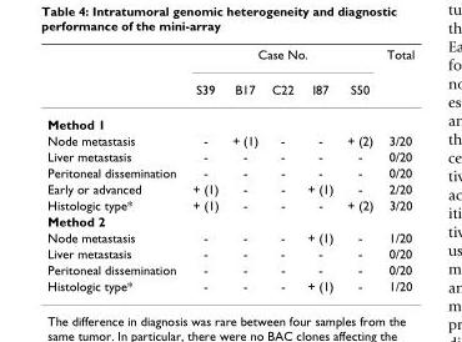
<table><thead><tr><td rowspan="2"></td><td colspan="5">Case No.</td><td rowspan="2">Total</td></tr><tr><td>S39</td><td>B17</td><td>C22</td><td>I87</td><td>S50</td></tr></thead><tbody><tr><td colspan="7">Method 1</td></tr><tr><td>Node metastasis</td><td>-</td><td>+ (1)</td><td>-</td><td>-</td><td>+ (2)</td><td>3/20</td></tr><tr><td>Liver metastasis</td><td>-</td><td>-</td><td>-</td><td>-</td><td>-</td><td>0/20</td></tr><tr><td>Peritoneal dissemination</td><td>-</td><td>-</td><td>-</td><td>-</td><td>-</td><td>0/20</td></tr><tr><td>Early or advanced</td><td>+ (1)</td><td>-</td><td>-</td><td>+ (1)</td><td>-</td><td>2/20</td></tr><tr><td>Histologic type*</td><td>+ (1)</td><td>-</td><td>-</td><td>-</td><td>+ (2)</td><td>3/20</td></tr><tr><td colspan="7">Method 2</td></tr><tr><td>Node metastasis</td><td>-</td><td>-</td><td>-</td><td>+ (1)</td><td>-</td><td>1/20</td></tr><tr><td>Liver metastasis</td><td>-</td><td>-</td><td>-</td><td>-</td><td>-</td><td>0/20</td></tr><tr><td>Peritoneal dissemination</td><td>-</td><td>-</td><td>-</td><td>-</td><td>-</td><td>0/20</td></tr><tr><td>Histologic type*</td><td>-</td><td>-</td><td>-</td><td>+ (1)</td><td>-</td><td>1/20</td></tr></tbody></table>